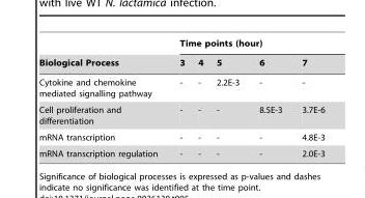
<table><thead><tr><td rowspan="2">Biological Process</td><td colspan="5">Time points (hour)</td></tr><tr><td>3</td><td>4</td><td>5</td><td>6</td><td>7</td></tr></thead><tbody><tr><td>Cytokine and chemokine mediated signalling pathway</td><td>-</td><td>-</td><td>2.2E-3</td><td>-</td><td>-</td></tr><tr><td>Cell proliferation and differentiation</td><td>-</td><td>-</td><td>-</td><td>8.5E-3</td><td>3.7E-6</td></tr><tr><td>mRNA transcription</td><td>-</td><td>-</td><td>-</td><td>-</td><td>4.8E-3</td></tr><tr><td>mRNA transcription regulation</td><td>-</td><td>-</td><td>-</td><td>-</td><td>2.0E-3</td></tr></tbody></table>